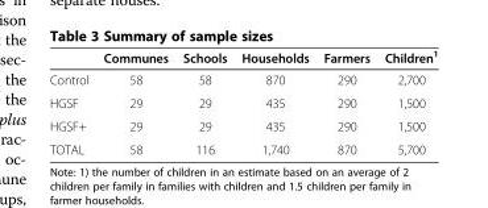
<table><thead><tr><td></td><td>Communes</td><td>Schools</td><td>Households</td><td>Farmers</td><td>Children<sup>1</sup></td></tr></thead><tbody><tr><td>Control</td><td>58</td><td>58</td><td>870</td><td>290</td><td>2,700</td></tr><tr><td>HGSF</td><td>29</td><td>29</td><td>435</td><td>290</td><td>1,500</td></tr><tr><td>HGSF+</td><td>29</td><td>29</td><td>435</td><td>290</td><td>1,500</td></tr><tr><td>TOTAL</td><td>58</td><td>116</td><td>1,740</td><td>870</td><td>5,700</td></tr></tbody></table>